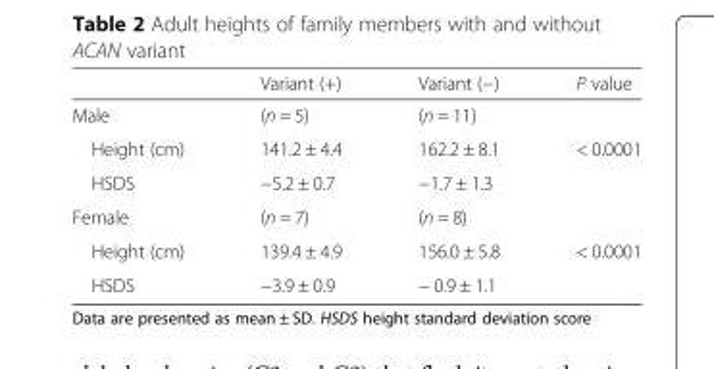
<table><thead><tr><td></td><td>Variant (+)</td><td>Variant (−)</td><td>P value</td></tr></thead><tbody><tr><td>Male</td><td>(n = 5)</td><td>(n = 11)</td><td></td></tr><tr><td>Height (cm)</td><td>141.2 ± 4.4</td><td>162.2 ± 8.1</td><td>&lt; 0.0001</td></tr><tr><td>HSDS</td><td>−5.2 ± 0.7</td><td>−1.7 ± 1.3</td><td></td></tr><tr><td>Female</td><td>(n = 7)</td><td>(n = 8)</td><td></td></tr><tr><td>Height (cm)</td><td>139.4 ± 4.9</td><td>156.0 ± 5.8</td><td>&lt; 0.0001</td></tr><tr><td>HSDS</td><td>−3.9 ± 0.9</td><td>− 0.9 ± 1.1</td><td></td></tr></tbody></table>